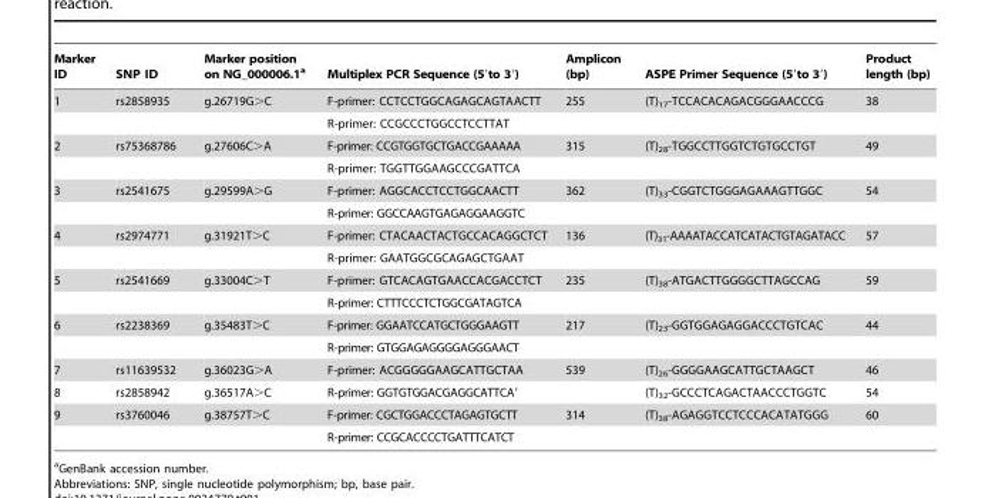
<table><thead><tr><td>Marker ID</td><td>SNP ID</td><td>Marker position on NG_000006.1<sup>a</sup></td><td>Multiplex PCR Sequence (5′to 3′)</td><td>Amplicon (bp)</td><td>ASPE Primer Sequence (5′to 3′)</td><td>Product length (bp)</td></tr></thead><tbody><tr><td rowspan="2">1</td><td>rs2858935</td><td>g.26719G&gt;C</td><td>F-primer: CCTCCTGGCAGAGCAGTAACTT</td><td>255</td><td>(T)<sub>17</sub>-TCCACACAGACGGGAACCCG</td><td>38</td></tr><tr><td></td><td></td><td>R-primer: CCGCCCTGGCCTCCTTAT</td><td></td><td></td><td></td></tr><tr><td rowspan="2">2</td><td>rs75368786</td><td>g.27606C&gt;A</td><td>F-primer: CCGTGGTGCTGACCGAAAAA</td><td>315</td><td>(T)<sub>28</sub>-TGGCCTTGGTCTGTGCCTGT</td><td>49</td></tr><tr><td></td><td></td><td>R-primer: TGGTTGGAAGCCCGATTCA</td><td></td><td></td><td></td></tr><tr><td rowspan="2">3</td><td>rs2541675</td><td>g.29599A&gt;G</td><td>F-primer: AGGCACCTCCTGGCAACTT</td><td>362</td><td>(T)<sub>33</sub>-CGGTCTGGGAGAAAGTTGGC</td><td>54</td></tr><tr><td></td><td></td><td>R-primer: GGCCAAGTGAGAGGAAGGTC</td><td></td><td></td><td></td></tr><tr><td rowspan="2">4</td><td>rs2974771</td><td>g.31921T&gt;C</td><td>F-primer: CTACAACTACTGCCACAGGCTCT</td><td>136</td><td>(T)<sub>31</sub>-AAAATACCATCATACTGTAGATACC</td><td>57</td></tr><tr><td></td><td></td><td>R-primer: GAATGGCGCAGAGCTGAAT</td><td></td><td></td><td></td></tr><tr><td rowspan="2">5</td><td>rs2541669</td><td>g.33004C&gt;T</td><td>F-primer: GTCACAGTGAACCACGACCTCT</td><td>235</td><td>(T)<sub>38</sub>-ATGACTTGGGGCTTAGCCAG</td><td>59</td></tr><tr><td></td><td></td><td>R-primer: CTTTCCCTCTGGCGATAGTCA</td><td></td><td></td><td></td></tr><tr><td rowspan="2">6</td><td>rs2238369</td><td>g.35483T&gt;C</td><td>F-primer: GGAATCCATGCTGGGAAGTT</td><td>217</td><td>(T)<sub>23</sub>-GGTGGAGAGGACCCTGTCAC</td><td>44</td></tr><tr><td></td><td></td><td>R-primer: GTGGAGAGGGGAGGGAACT</td><td></td><td></td><td></td></tr><tr><td>7</td><td>rs11639532</td><td>g.36023G&gt;A</td><td>F-primer: ACGGGGGAAGCATTGCTAA</td><td>539</td><td>(T)<sub>26</sub>-GGGGAAGCATTGCTAAGCT</td><td>46</td></tr><tr><td>8</td><td>rs2858942</td><td>g.36517A&gt;C</td><td>R-primer: GGTGTGGACGAGGCATTCA′</td><td></td><td>(T)<sub>32</sub>-GCCCTCAGACTAACCCTGGTC</td><td>54</td></tr><tr><td rowspan="2">9</td><td>rs3760046</td><td>g.38757T&gt;C</td><td>F-primer: CGCTGGACCCTAGAGTGCTT</td><td>314</td><td>(T)<sub>38</sub>-AGAGGTCCTCCCACATATGGG</td><td>60</td></tr><tr><td></td><td></td><td>R-primer: CCGCACCCCTGATTTCATCT</td><td></td><td></td><td></td></tr></tbody></table>